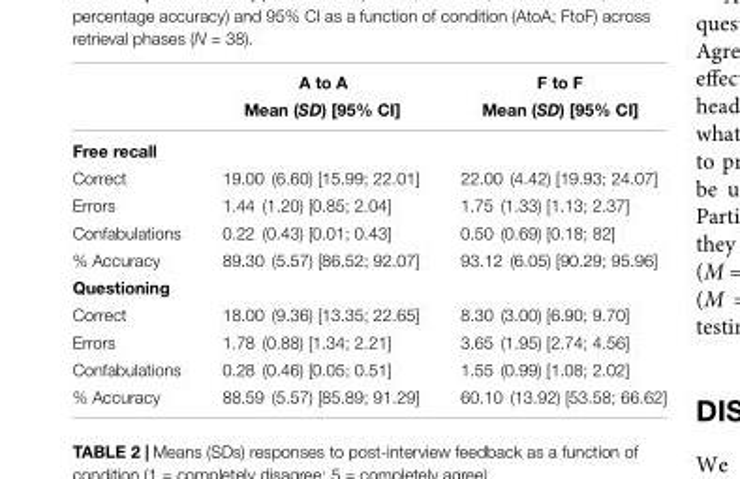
<table><thead><tr><td rowspan="2"></td><td rowspan="2">A to A Mean (SD) [95% CI]</td><td rowspan="2">F to F Mean (SD) [95% CI]</td></tr><tr></tr></thead><tbody><tr><td colspan="3">Free recall</td></tr><tr><td>Correct</td><td>19.00 (6.60) [15.99; 22.01]</td><td>22.00 (4.42) [19.93; 24.07]</td></tr><tr><td>Errors</td><td>1.44 (1.20) [0.85; 2.04]</td><td>1.75 (1.33) [1.13; 2.37]</td></tr><tr><td>Confabulations</td><td>0.22 (0.43) [0.01; 0.43]</td><td>0.50 (0.69) [0.18; 82]</td></tr><tr><td>% Accuracy</td><td>89.30 (5.57) [86.52; 92.07]</td><td>93.12 (6.05) [90.29; 95.96]</td></tr><tr><td colspan="3">Questioning</td></tr><tr><td>Correct</td><td>18.00 (9.36) [13.35; 22.65]</td><td>8.30 (3.00) [6.90; 9.70]</td></tr><tr><td>Errors</td><td>1.78 (0.88) [1.34; 2.21]</td><td>3.65 (1.95) [2.74; 4.56]</td></tr><tr><td>Confabulations</td><td>0.28 (0.46) [0.05; 0.51]</td><td>1.55 (0.99) [1.08; 2.02]</td></tr><tr><td>% Accuracy</td><td>88.59 (5.57) [85.89; 91.29]</td><td>60.10 (13.92) [53.58; 66.62]</td></tr></tbody></table>